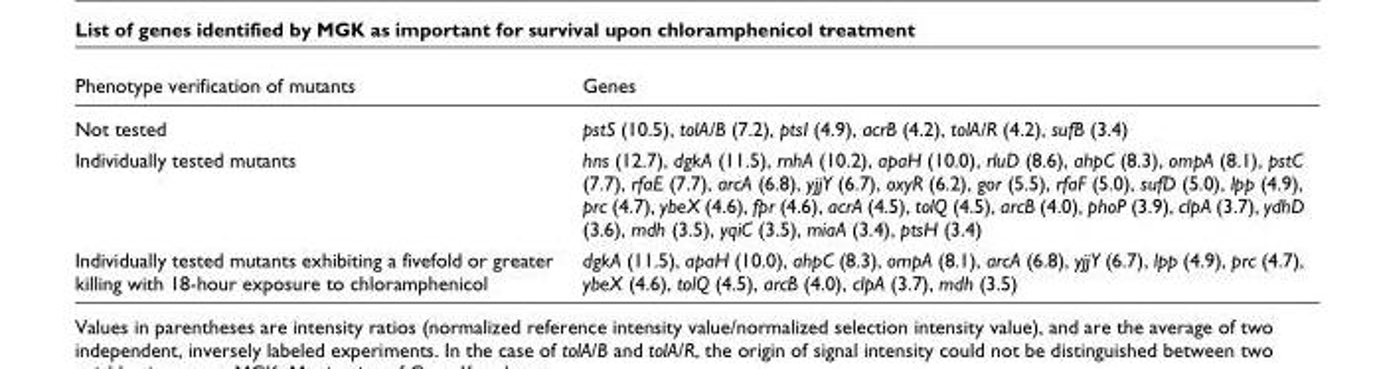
<table><thead><tr><td>Phenotype verification of mutants</td><td>Genes</td></tr></thead><tbody><tr><td>Not tested</td><td>pstS (10.5), tolA/B (7.2), ptsI (4.9), acrB (4.2), tolA/R (4.2), sufB (3.4)</td></tr><tr><td>Individually tested mutants</td><td>hns (12.7), dgkA (11.5), rnhA (10.2), apaH (10.0), rluD (8.6), ahpC (8.3), ompA (8.1), pstC (7.7), rfaE (7.7), arcA (6.8), yjjY (6.7), oxyR (6.2), gor (5.5), rfaF (5.0), sufD (5.0), lpp (4.9), prc (4.7), ybeX (4.6), fpr (4.6), acrA (4.5), tolQ (4.5), arcB (4.0), phoP (3.9), clpA (3.7), ydhD (3.6), mdh (3.5), yqiC (3.5), miaA (3.4), ptsH (3.4)</td></tr><tr><td>Individually tested mutants exhibiting a fivefold or greater killing with 18-hour exposure to chloramphenicol</td><td>dgkA (11.5), apaH (10.0), ahpC (8.3), ompA (8.1), arcA (6.8), yjjY (6.7), lpp (4.9), prc (4.7), ybeX (4.6), tolQ (4.5), arcB (4.0), clpA (3.7), mdh (3.5)</td></tr></tbody></table>